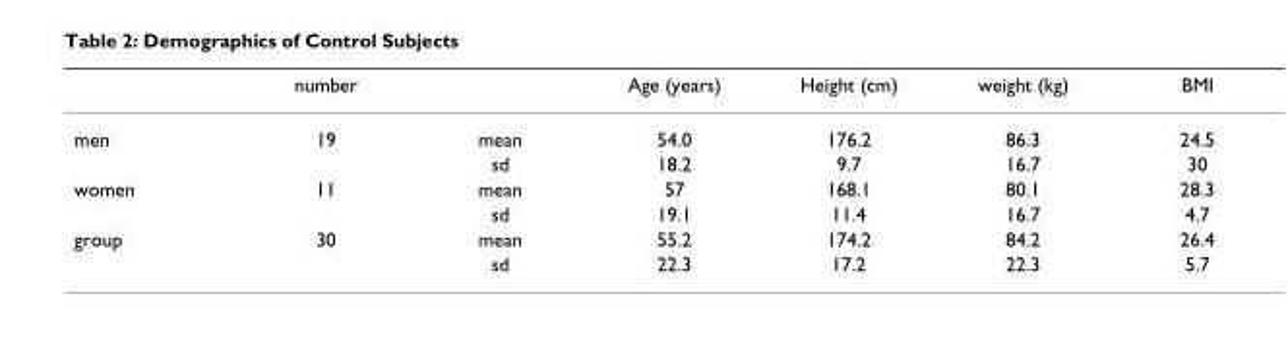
<table><thead><tr><td></td><td>number</td><td></td><td>Age (years)</td><td>Height (cm)</td><td>weight (kg)</td><td>BMI</td></tr></thead><tbody><tr><td rowspan="2">men</td><td>19</td><td>mean</td><td>54.0</td><td>176.2</td><td>86.3</td><td>24.5</td></tr><tr><td></td><td>sd</td><td>18.2</td><td>9.7</td><td>16.7</td><td>30</td></tr><tr><td rowspan="2">women</td><td>11</td><td>mean</td><td>57</td><td>168.1</td><td>80.1</td><td>28.3</td></tr><tr><td></td><td>sd</td><td>19.1</td><td>11.4</td><td>16.7</td><td>4.7</td></tr><tr><td rowspan="2">group</td><td>30</td><td>mean</td><td>55.2</td><td>174.2</td><td>84.2</td><td>26.4</td></tr><tr><td></td><td>sd</td><td>22.3</td><td>17.2</td><td>22.3</td><td>5.7</td></tr></tbody></table>